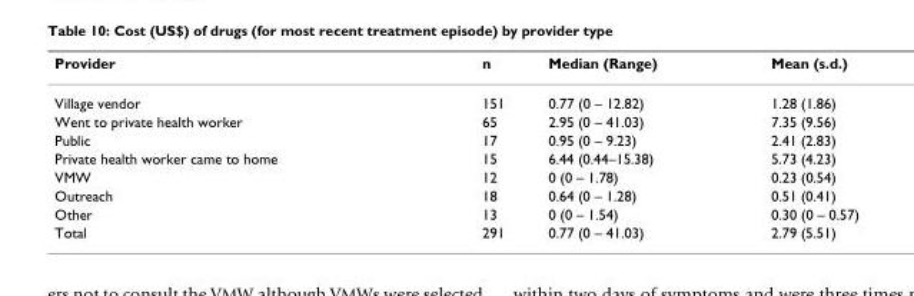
<table><thead><tr><td>Provider</td><td>n</td><td>Median (Range)</td><td>Mean (s.d.)</td></tr></thead><tbody><tr><td>Village vendor</td><td>151</td><td>0.77 (0 – 12.82)</td><td>1.28 (1.86)</td></tr><tr><td>Went to private health worker</td><td>65</td><td>2.95 (0 – 41.03)</td><td>7.35 (9.56)</td></tr><tr><td>Public</td><td>17</td><td>0.95 (0 – 9.23)</td><td>2.41 (2.83)</td></tr><tr><td>Private health worker came to home</td><td>15</td><td>6.44 (0.44–15.38)</td><td>5.73 (4.23)</td></tr><tr><td>VMW</td><td>12</td><td>0 (0 – 1.78)</td><td>0.23 (0.54)</td></tr><tr><td>Outreach</td><td>18</td><td>0.64 (0 – 1.28)</td><td>0.51 (0.41)</td></tr><tr><td>Other</td><td>13</td><td>0 (0 – 1.54)</td><td>0.30 (0 – 0.57)</td></tr><tr><td>Total</td><td>291</td><td>0.77 (0 – 41.03)</td><td>2.79 (5.51)</td></tr></tbody></table>